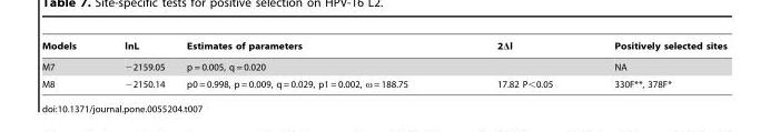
<table><thead><tr><td>Models</td><td>lnL</td><td>Estimates of parameters</td><td>2Δl</td><td>Positively selected sites</td></tr></thead><tbody><tr><td>M7</td><td>−2159.05</td><td>p = 0.005, q = 0.020</td><td></td><td>NA</td></tr><tr><td>M8</td><td>−2150.14</td><td>p0 = 0.998, p = 0.009, q = 0.029, p1 = 0.002, ω = 188.75</td><td>17.82 P&lt;0.05</td><td>330F**, 378F*</td></tr></tbody></table>